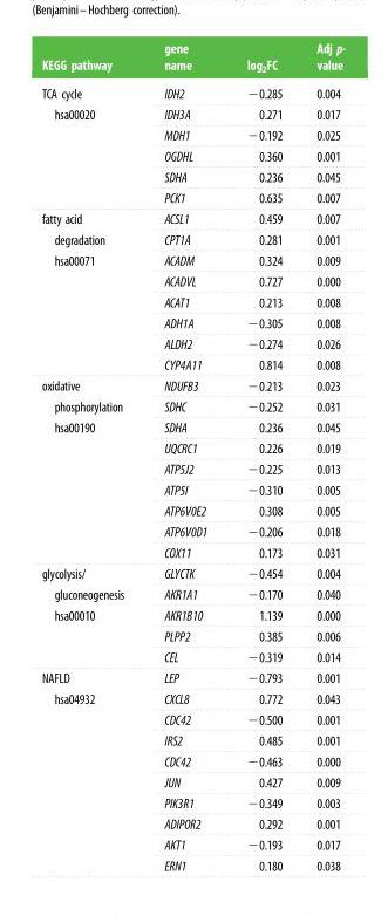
<table><thead><tr><td>KEGG pathway</td><td>gene name</td><td>log<sub>2</sub>FC</td><td>Adj p- value</td></tr></thead><tbody><tr><td rowspan="6">TCA cycle hsa00020</td><td>IDH2</td><td>−0.285</td><td>0.004</td></tr><tr><td>IDH3A</td><td>0.271</td><td>0.017</td></tr><tr><td>MDH1</td><td>−0.192</td><td>0.025</td></tr><tr><td>OGDHL</td><td>0.360</td><td>0.001</td></tr><tr><td>SDHA</td><td>0.236</td><td>0.045</td></tr><tr><td>PCK1</td><td>0.635</td><td>0.007</td></tr><tr><td rowspan="8">fatty acid degradation hsa00071</td><td>ACSL1</td><td>0.459</td><td>0.007</td></tr><tr><td>CPT1A</td><td>0.281</td><td>0.001</td></tr><tr><td>ACADM</td><td>0.324</td><td>0.009</td></tr><tr><td>ACADVL</td><td>0.727</td><td>0.000</td></tr><tr><td>ACAT1</td><td>0.213</td><td>0.008</td></tr><tr><td>ADH1A</td><td>−0.305</td><td>0.008</td></tr><tr><td>ALDH2</td><td>−0.274</td><td>0.026</td></tr><tr><td>CYP4A11</td><td>0.814</td><td>0.008</td></tr><tr><td rowspan="9">oxidative phosphorylation hsa00190</td><td>NDUFB3</td><td>−0.213</td><td>0.023</td></tr><tr><td>SDHC</td><td>−0.252</td><td>0.031</td></tr><tr><td>SDHA</td><td>0.236</td><td>0.045</td></tr><tr><td>UQCRC1</td><td>0.226</td><td>0.019</td></tr><tr><td>ATP5J2</td><td>−0.225</td><td>0.013</td></tr><tr><td>ATP5I</td><td>−0.310</td><td>0.005</td></tr><tr><td>ATP6V0E2</td><td>0.308</td><td>0.005</td></tr><tr><td>ATP6V0D1</td><td>−0.206</td><td>0.018</td></tr><tr><td>COX11</td><td>0.173</td><td>0.031</td></tr><tr><td rowspan="5">glycolysis/ gluconeogenesis hsa00010</td><td>GLYCTK</td><td>−0.454</td><td>0.004</td></tr><tr><td>AKR1A1</td><td>−0.170</td><td>0.040</td></tr><tr><td>AKR1B10</td><td>1.139</td><td>0.000</td></tr><tr><td>PLPP2</td><td>0.385</td><td>0.006</td></tr><tr><td>CEL</td><td>−0.319</td><td>0.014</td></tr><tr><td rowspan="10">NAFLD hsa04932</td><td>LEP</td><td>−0.793</td><td>0.001</td></tr><tr><td>CXCL8</td><td>0.772</td><td>0.043</td></tr><tr><td>CDC42</td><td>−0.500</td><td>0.001</td></tr><tr><td>IRS2</td><td>0.485</td><td>0.001</td></tr><tr><td>CDC42</td><td>−0.463</td><td>0.000</td></tr><tr><td>JUN</td><td>0.427</td><td>0.009</td></tr><tr><td>PIK3R1</td><td>−0.349</td><td>0.003</td></tr><tr><td>ADIPOR2</td><td>0.292</td><td>0.001</td></tr><tr><td>AKT1</td><td>−0.193</td><td>0.017</td></tr><tr><td>ERN1</td><td>0.180</td><td>0.038</td></tr></tbody></table>